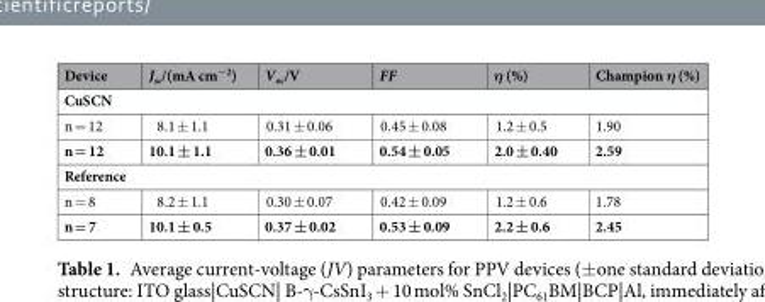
<table><thead><tr><td>Device</td><td>J<sub>sc</sub>/(mA cm<sup>−2</sup>)</td><td>V<sub>oc</sub>/V</td><td>FF</td><td>η (%)</td><td>Champion η (%)</td></tr></thead><tbody><tr><td colspan="6">CuSCN</td></tr><tr><td>n = 12</td><td>8.1 ± 1.1</td><td>0.31 ± 0.06</td><td>0.45 ± 0.08</td><td>1.2 ± 0.5</td><td>1.90</td></tr><tr><td>n = 12</td><td>10.1 ± 1.1</td><td>0.36 ± 0.01</td><td>0.54 ± 0.05</td><td>2.0 ± 0.40</td><td>2.59</td></tr><tr><td colspan="6">Reference</td></tr><tr><td>n = 8</td><td>8.2 ± 1.1</td><td>0.30 ± 0.07</td><td>0.42 ± 0.09</td><td>1.2 ± 0.6</td><td>1.78</td></tr><tr><td>n = 7</td><td>10.1 ± 0.5</td><td>0.37 ± 0.02</td><td>0.53 ± 0.09</td><td>2.2 ± 0.6</td><td>2.45</td></tr></tbody></table>